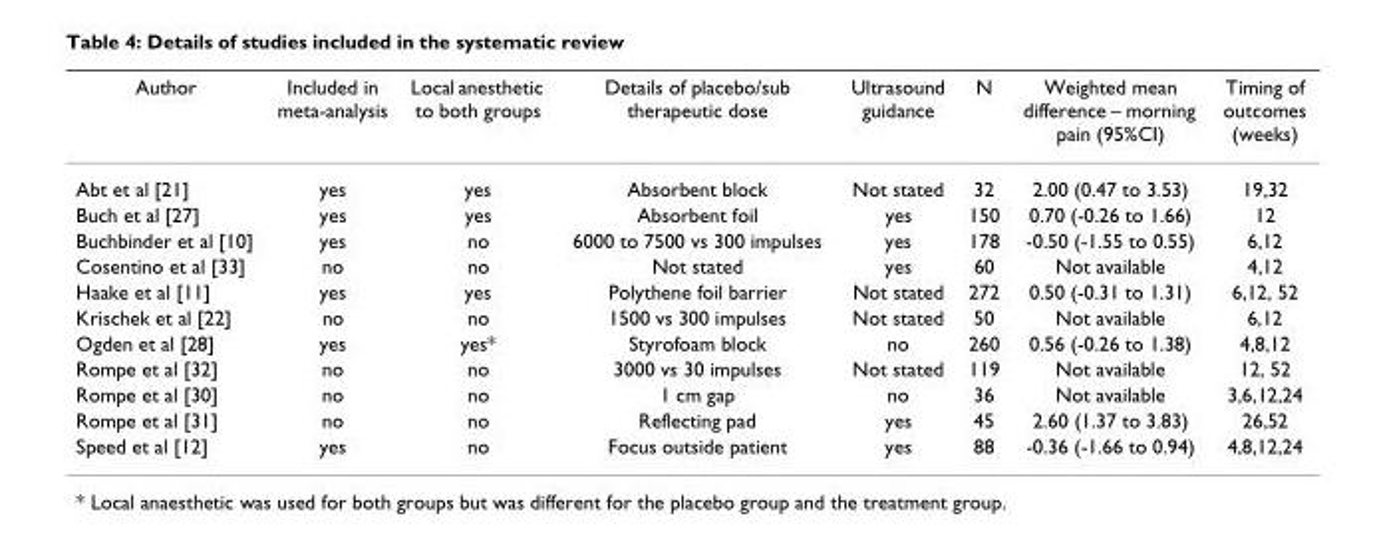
<table><thead><tr><td>Author</td><td>Included in meta-analysis</td><td>Local anesthetic to both groups</td><td>Details of placebo/sub therapeutic dose</td><td>Ultrasound guidance</td><td>N</td><td>Weighted mean difference – morning pain (95%CI)</td><td>Timing of outcomes (weeks)</td></tr></thead><tbody><tr><td>Abt et al [21]</td><td>yes</td><td>yes</td><td>Absorbent block</td><td>Not stated</td><td>32</td><td>2.00 (0.47 to 3.53)</td><td>19,32</td></tr><tr><td>Buch et al [27]</td><td>yes</td><td>yes</td><td>Absorbent foil</td><td>yes</td><td>150</td><td>0.70 (-0.26 to 1.66)</td><td>12</td></tr><tr><td>Buchbinder et al [10]</td><td>yes</td><td>no</td><td>6000 to 7500 vs 300 impulses</td><td>yes</td><td>178</td><td>-0.50 (-1.55 to 0.55)</td><td>6,12</td></tr><tr><td>Cosentino et al [33]</td><td>no</td><td>no</td><td>Not stated</td><td>yes</td><td>60</td><td>Not available</td><td>4,12</td></tr><tr><td>Haake et al [11]</td><td>yes</td><td>yes</td><td>Polythene foil barrier</td><td>Not stated</td><td>272</td><td>0.50 (-0.31 to 1.31)</td><td>6,12, 52</td></tr><tr><td>Krischek et al [22]</td><td>no</td><td>no</td><td>1500 vs 300 impulses</td><td>Not stated</td><td>50</td><td>Not available</td><td>6,12</td></tr><tr><td>Ogden et al [28]</td><td>yes</td><td>yes*</td><td>Styrofoam block</td><td>no</td><td>260</td><td>0.56 (-0.26 to 1.38)</td><td>4,8,12</td></tr><tr><td>Rompe et al [32]</td><td>no</td><td>no</td><td>3000 vs 30 impulses</td><td>Not stated</td><td>119</td><td>Not available</td><td>12, 52</td></tr><tr><td>Rompe et al [30]</td><td>no</td><td>no</td><td>1 cm gap</td><td>no</td><td>36</td><td>Not available</td><td>3,6,12,24</td></tr><tr><td>Rompe et al [31]</td><td>no</td><td>no</td><td>Reflecting pad</td><td>yes</td><td>45</td><td>2.60 (1.37 to 3.83)</td><td>26,52</td></tr><tr><td>Speed et al [12]</td><td>yes</td><td>no</td><td>Focus outside patient</td><td>yes</td><td>88</td><td>-0.36 (-1.66 to 0.94)</td><td>4,8,12,24</td></tr></tbody></table>